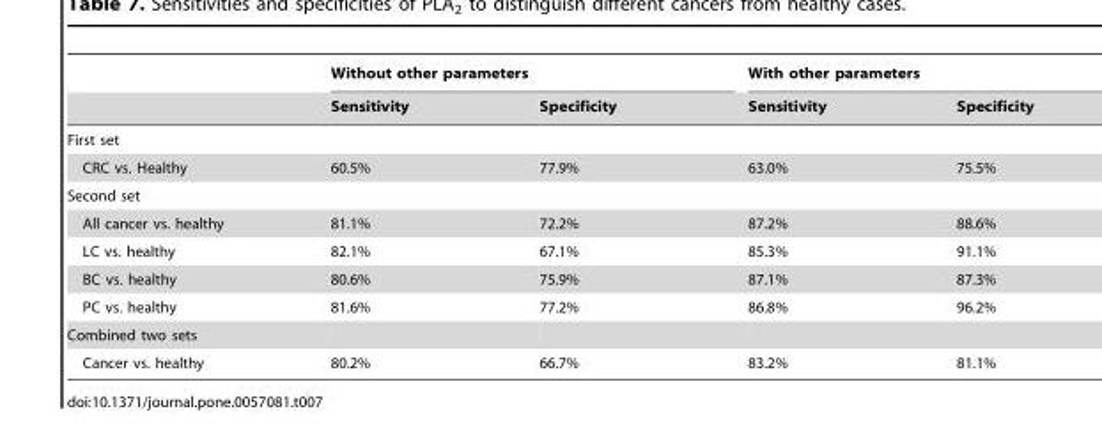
<table><thead><tr><td rowspan="2"></td><td colspan="2">Without other parameters</td><td colspan="2">With other parameters</td></tr><tr><td>Sensitivity</td><td>Specificity</td><td>Sensitivity</td><td>Specificity</td></tr></thead><tbody><tr><td colspan="5">First set</td></tr><tr><td>CRC vs. Healthy</td><td>60.5%</td><td>77.9%</td><td>63.0%</td><td>75.5%</td></tr><tr><td colspan="5">Second set</td></tr><tr><td>All cancer vs. healthy</td><td>81.1%</td><td>72.2%</td><td>87.2%</td><td>88.6%</td></tr><tr><td>LC vs. healthy</td><td>82.1%</td><td>67.1%</td><td>85.3%</td><td>91.1%</td></tr><tr><td>BC vs. healthy</td><td>80.6%</td><td>75.9%</td><td>87.1%</td><td>87.3%</td></tr><tr><td>PC vs. healthy</td><td>81.6%</td><td>77.2%</td><td>86.8%</td><td>96.2%</td></tr><tr><td colspan="5">Combined two sets</td></tr><tr><td>Cancer vs. healthy</td><td>80.2%</td><td>66.7%</td><td>83.2%</td><td>81.1%</td></tr></tbody></table>